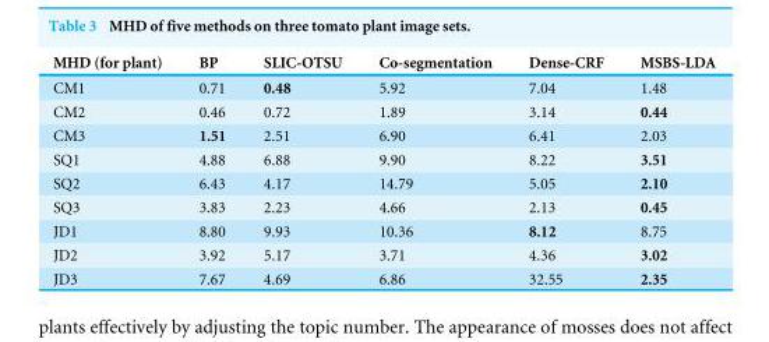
<table><thead><tr><td>MHD (for plant)</td><td>BP</td><td>SLIC-OTSU</td><td>Co-segmentation</td><td>Dense-CRF</td><td>MSBS-LDA</td></tr></thead><tbody><tr><td>CM1</td><td>0.71</td><td>0.48</td><td>5.92</td><td>7.04</td><td>1.48</td></tr><tr><td>CM2</td><td>0.46</td><td>0.72</td><td>1.89</td><td>3.14</td><td>0.44</td></tr><tr><td>CM3</td><td>1.51</td><td>2.51</td><td>6.90</td><td>6.41</td><td>2.03</td></tr><tr><td>SQ1</td><td>4.88</td><td>6.88</td><td>9.90</td><td>8.22</td><td>3.51</td></tr><tr><td>SQ2</td><td>6.43</td><td>4.17</td><td>14.79</td><td>5.05</td><td>2.10</td></tr><tr><td>SQ3</td><td>3.83</td><td>2.23</td><td>4.66</td><td>2.13</td><td>0.45</td></tr><tr><td>JD1</td><td>8.80</td><td>9.93</td><td>10.36</td><td>8.12</td><td>8.75</td></tr><tr><td>JD2</td><td>3.92</td><td>5.17</td><td>3.71</td><td>4.36</td><td>3.02</td></tr><tr><td>JD3</td><td>7.67</td><td>4.69</td><td>6.86</td><td>32.55</td><td>2.35</td></tr></tbody></table>